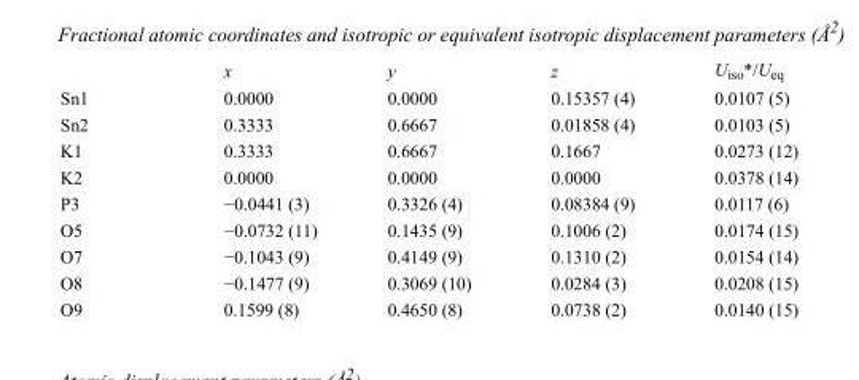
<table><thead><tr><td></td><td>x</td><td>y</td><td>z</td><td>U<sub>iso</sub>*/U<sub>eq</sub></td></tr></thead><tbody><tr><td>Sn1</td><td>0.0000</td><td>0.0000</td><td>0.15357 (4)</td><td>0.0107 (5)</td></tr><tr><td>Sn2</td><td>0.3333</td><td>0.6667</td><td>0.01858 (4)</td><td>0.0103 (5)</td></tr><tr><td>K1</td><td>0.3333</td><td>0.6667</td><td>0.1667</td><td>0.0273 (12)</td></tr><tr><td>K2</td><td>0.0000</td><td>0.0000</td><td>0.0000</td><td>0.0378 (14)</td></tr><tr><td>P3</td><td>−0.0441 (3)</td><td>0.3326 (4)</td><td>0.08384 (9)</td><td>0.0117 (6)</td></tr><tr><td>O5</td><td>−0.0732 (11)</td><td>0.1435 (9)</td><td>0.1006 (2)</td><td>0.0174 (15)</td></tr><tr><td>O7</td><td>−0.1043 (9)</td><td>0.4149 (9)</td><td>0.1310 (2)</td><td>0.0154 (14)</td></tr><tr><td>O8</td><td>−0.1477 (9)</td><td>0.3069 (10)</td><td>0.0284 (3)</td><td>0.0208 (15)</td></tr><tr><td>O9</td><td>0.1599 (8)</td><td>0.4650 (8)</td><td>0.0738 (2)</td><td>0.0140 (15)</td></tr></tbody></table>